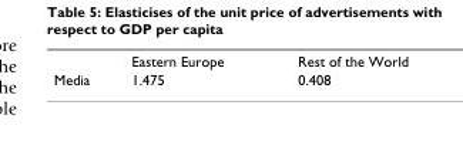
<table><thead><tr><td></td><td>Eastern Europe</td><td>Rest of the World</td></tr></thead><tbody><tr><td>Media</td><td>1.475</td><td>0.408</td></tr></tbody></table>